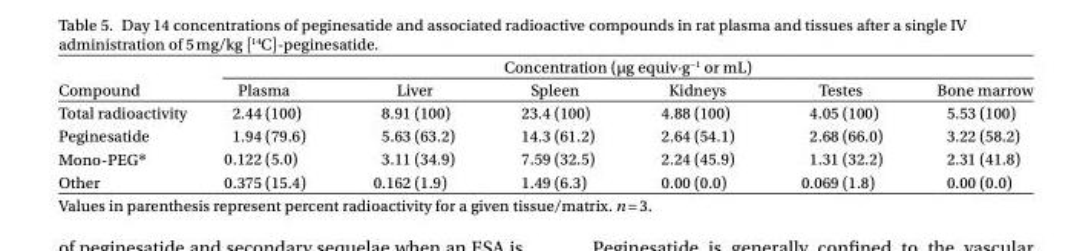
<table><thead><tr><td rowspan="2">Compound</td><td colspan="6">Concentration (µg equiv·g<sup>−1</sup> or mL)</td></tr><tr><td>Plasma</td><td>Liver</td><td>Spleen</td><td>Kidneys</td><td>Testes</td><td>Bone marrow</td></tr></thead><tbody><tr><td>Total radioactivity</td><td>2.44 (100)</td><td>8.91 (100)</td><td>23.4 (100)</td><td>4.88 (100)</td><td>4.05 (100)</td><td>5.53 (100)</td></tr><tr><td>Peginesatide</td><td>1.94 (79.6)</td><td>5.63 (63.2)</td><td>14.3 (61.2)</td><td>2.64 (54.1)</td><td>2.68 (66.0)</td><td>3.22 (58.2)</td></tr><tr><td>Mono-PEG*</td><td>0.122 (5.0)</td><td>3.11 (34.9)</td><td>7.59 (32.5)</td><td>2.24 (45.9)</td><td>1.31 (32.2)</td><td>2.31 (41.8)</td></tr><tr><td>Other</td><td>0.375 (15.4)</td><td>0.162 (1.9)</td><td>1.49 (6.3)</td><td>0.00 (0.0)</td><td>0.069 (1.8)</td><td>0.00 (0.0)</td></tr></tbody></table>